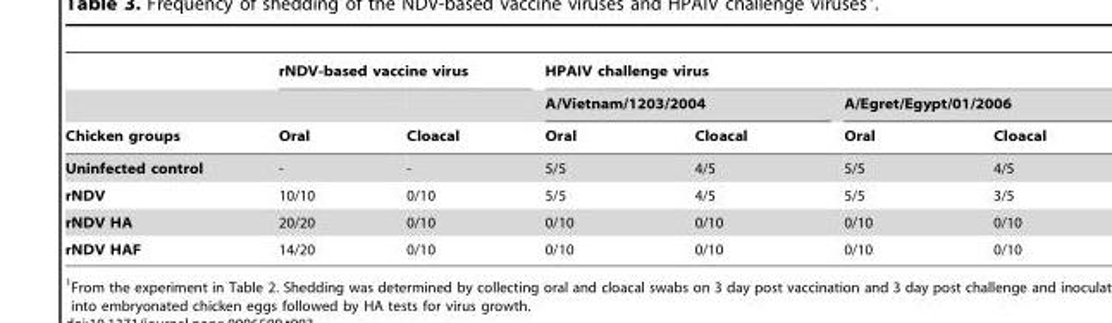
<table><thead><tr><td rowspan="3">Chicken groups</td><td colspan="2">rNDV-based vaccine virus</td><td colspan="4">HPAIV challenge virus</td></tr><tr><td rowspan="2">Oral</td><td rowspan="2">Cloacal</td><td colspan="2">A/Vietnam/1203/2004</td><td colspan="2">A/Egret/Egypt/01/2006</td></tr><tr><td>Oral</td><td>Cloacal</td><td>Oral</td><td>Cloacal</td></tr></thead><tbody><tr><td>Uninfected control</td><td>-</td><td>-</td><td>5/5</td><td>4/5</td><td>5/5</td><td>4/5</td></tr><tr><td>rNDV</td><td>10/10</td><td>0/10</td><td>5/5</td><td>4/5</td><td>5/5</td><td>3/5</td></tr><tr><td>rNDV HA</td><td>20/20</td><td>0/10</td><td>0/10</td><td>0/10</td><td>0/10</td><td>0/10</td></tr><tr><td>rNDV HAF</td><td>14/20</td><td>0/10</td><td>0/10</td><td>0/10</td><td>0/10</td><td>0/10</td></tr></tbody></table>